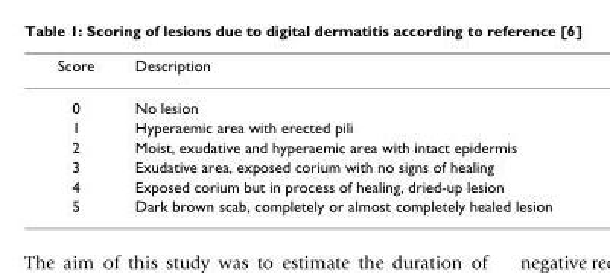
<table><thead><tr><td>Score</td><td>Description</td></tr></thead><tbody><tr><td>0</td><td>No lesion</td></tr><tr><td>1</td><td>Hyperaemic area with erected pili</td></tr><tr><td>2</td><td>Moist, exudative and hyperaemic area with intact epidermis</td></tr><tr><td>3</td><td>Exudative area, exposed corium with no signs of healing</td></tr><tr><td>4</td><td>Exposed corium but in process of healing, dried-up lesion</td></tr><tr><td>5</td><td>Dark brown scab, completely or almost completely healed lesion</td></tr></tbody></table>